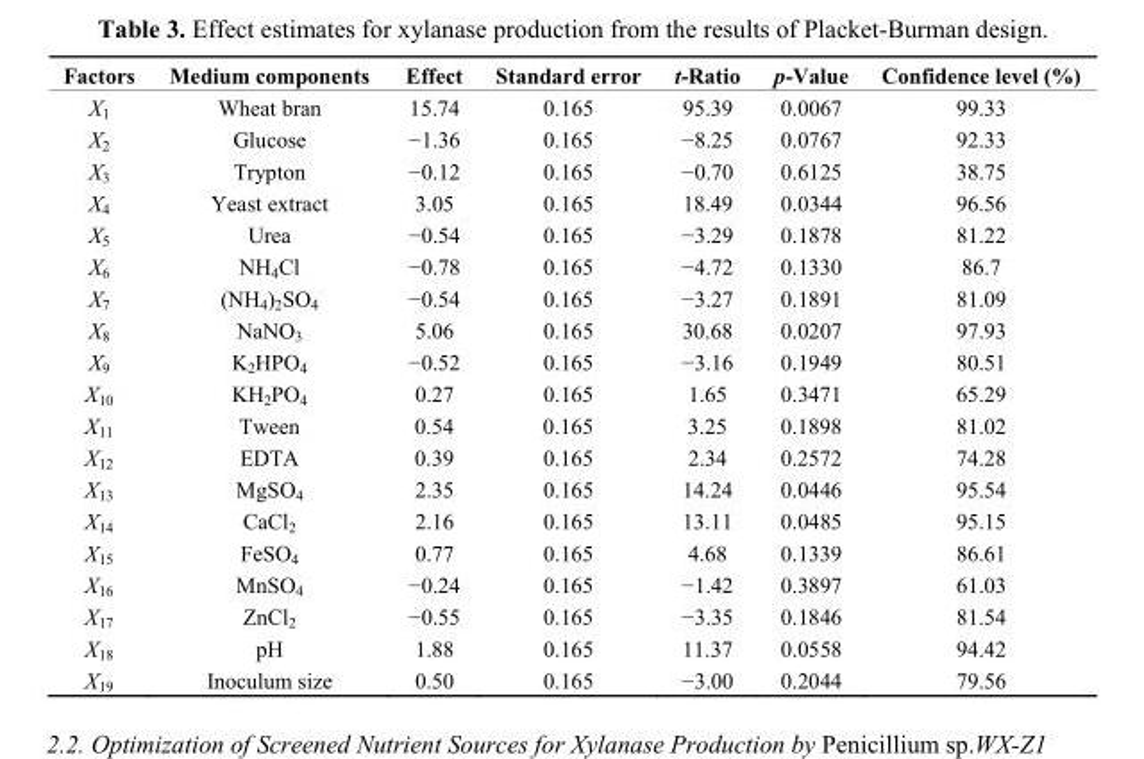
<table><thead><tr><td>Factors</td><td>Medium components</td><td>Effect</td><td>Standard error</td><td>t-Ratio</td><td>p-Value</td><td>Confidence level (%)</td></tr></thead><tbody><tr><td>X<sub>1</sub></td><td>Wheat bran</td><td>15.74</td><td>0.165</td><td>95.39</td><td>0.0067</td><td>99.33</td></tr><tr><td>X<sub>2</sub></td><td>Glucose</td><td>−1.36</td><td>0.165</td><td>−8.25</td><td>0.0767</td><td>92.33</td></tr><tr><td>X<sub>3</sub></td><td>Trypton</td><td>−0.12</td><td>0.165</td><td>−0.70</td><td>0.6125</td><td>38.75</td></tr><tr><td>X<sub>4</sub></td><td>Yeast extract</td><td>3.05</td><td>0.165</td><td>18.49</td><td>0.0344</td><td>96.56</td></tr><tr><td>X<sub>5</sub></td><td>Urea</td><td>−0.54</td><td>0.165</td><td>−3.29</td><td>0.1878</td><td>81.22</td></tr><tr><td>X<sub>6</sub></td><td>NH<sub>4</sub>Cl</td><td>−0.78</td><td>0.165</td><td>−4.72</td><td>0.1330</td><td>86.7</td></tr><tr><td>X<sub>7</sub></td><td>(NH<sub>4</sub>)<sub>2</sub>SO<sub>4</sub></td><td>−0.54</td><td>0.165</td><td>−3.27</td><td>0.1891</td><td>81.09</td></tr><tr><td>X<sub>8</sub></td><td>NaNO<sub>3</sub></td><td>5.06</td><td>0.165</td><td>30.68</td><td>0.0207</td><td>97.93</td></tr><tr><td>X<sub>9</sub></td><td>K<sub>2</sub>HPO<sub>4</sub></td><td>−0.52</td><td>0.165</td><td>−3.16</td><td>0.1949</td><td>80.51</td></tr><tr><td>X<sub>10</sub></td><td>KH<sub>2</sub>PO<sub>4</sub></td><td>0.27</td><td>0.165</td><td>1.65</td><td>0.3471</td><td>65.29</td></tr><tr><td>X<sub>11</sub></td><td>Tween</td><td>0.54</td><td>0.165</td><td>3.25</td><td>0.1898</td><td>81.02</td></tr><tr><td>X<sub>12</sub></td><td>EDTA</td><td>0.39</td><td>0.165</td><td>2.34</td><td>0.2572</td><td>74.28</td></tr><tr><td>X<sub>13</sub></td><td>MgSO<sub>4</sub></td><td>2.35</td><td>0.165</td><td>14.24</td><td>0.0446</td><td>95.54</td></tr><tr><td>X<sub>14</sub></td><td>CaCl<sub>2</sub></td><td>2.16</td><td>0.165</td><td>13.11</td><td>0.0485</td><td>95.15</td></tr><tr><td>X<sub>15</sub></td><td>FeSO<sub>4</sub></td><td>0.77</td><td>0.165</td><td>4.68</td><td>0.1339</td><td>86.61</td></tr><tr><td>X<sub>16</sub></td><td>MnSO<sub>4</sub></td><td>−0.24</td><td>0.165</td><td>−1.42</td><td>0.3897</td><td>61.03</td></tr><tr><td>X<sub>17</sub></td><td>ZnCl<sub>2</sub></td><td>−0.55</td><td>0.165</td><td>−3.35</td><td>0.1846</td><td>81.54</td></tr><tr><td>X<sub>18</sub></td><td>pH</td><td>1.88</td><td>0.165</td><td>11.37</td><td>0.0558</td><td>94.42</td></tr><tr><td>X<sub>19</sub></td><td>Inoculum size</td><td>0.50</td><td>0.165</td><td>−3.00</td><td>0.2044</td><td>79.56</td></tr></tbody></table>